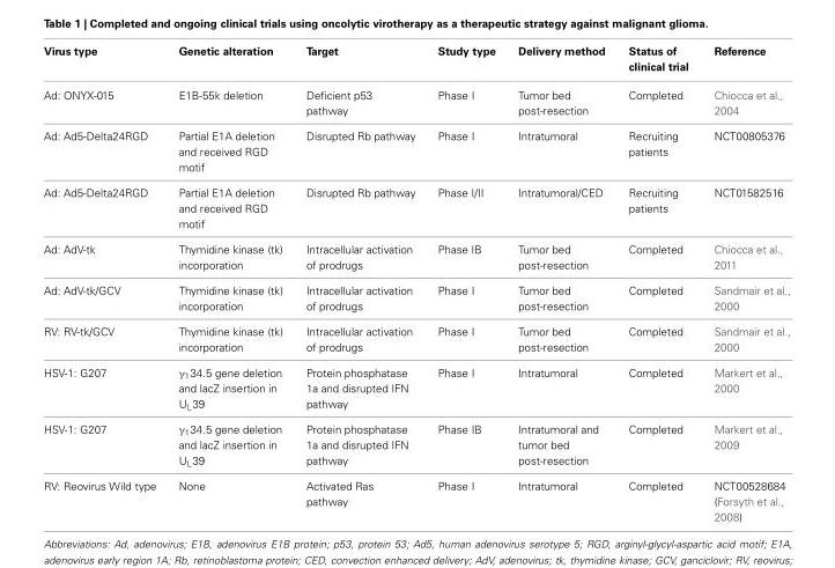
<table><thead><tr><td>Virus type</td><td>Genetic alteration</td><td>Target</td><td>Study type</td><td>Delivery method</td><td>Status of clinical trial</td><td>Reference</td></tr></thead><tbody><tr><td>Ad: ONYX-015</td><td>E1B-55k deletion</td><td>Deficient p53 pathway</td><td>Phase I</td><td>Tumor bed post-resection</td><td>Completed</td><td>Chiocca et al., 2004</td></tr><tr><td>Ad: Ad5-Delta24RGD</td><td>Partial E1A deletion and received RGD motif</td><td>Disrupted Rb pathway</td><td>Phase I</td><td>Intratumoral</td><td>Recruiting patients</td><td>NCT00805376</td></tr><tr><td>Ad: Ad5-Delta24RGD</td><td>Partial E1A deletion and received RGD motif</td><td>Disrupted Rb pathway</td><td>Phase I/II</td><td>Intratumoral/CED</td><td>Recruiting patients</td><td>NCT01582516</td></tr><tr><td>Ad: AdV-tk</td><td>Thymidine kinase (tk) incorporation</td><td>Intracellular activation of prodrugs</td><td>Phase IB</td><td>Tumor bed post-resection</td><td>Completed</td><td>Chiocca et al., 2011</td></tr><tr><td>Ad: AdV-tk/GCV</td><td>Thymidine kinase (tk) incorporation</td><td>Intracellular activation of prodrugs</td><td>Phase I</td><td>Tumor bed post-resection</td><td>Completed</td><td>Sandmair et al., 2000</td></tr><tr><td>RV: RV-tk/GCV</td><td>Thymidine kinase (tk) incorporation</td><td>Intracellular activation of prodrugs</td><td>Phase I</td><td>Tumor bed post-resection</td><td>Completed</td><td>Sandmair et al., 2000</td></tr><tr><td>HSV-1: G207</td><td>γ<sub>1</sub>34.5 gene deletion and lacZ insertion in U<sub>L</sub>39</td><td>Protein phosphatase 1a and disrupted IFN pathway</td><td>Phase I</td><td>Intratumoral</td><td>Completed</td><td>Markert et al., 2000</td></tr><tr><td>HSV-1: G207</td><td>γ<sub>1</sub>34.5 gene deletion and lacZ insertion in U<sub>L</sub>39</td><td>Protein phosphatase 1a and disrupted IFN pathway</td><td>Phase IB</td><td>Intratumoral and tumor bed post-resection</td><td>Completed</td><td>Markert et al., 2009</td></tr><tr><td>RV: Reovirus Wild type</td><td>None</td><td>Activated Ras pathway</td><td>Phase I</td><td>Intratumoral</td><td>Completed</td><td>NCT00528684 (Forsyth et al., 2008)</td></tr></tbody></table>